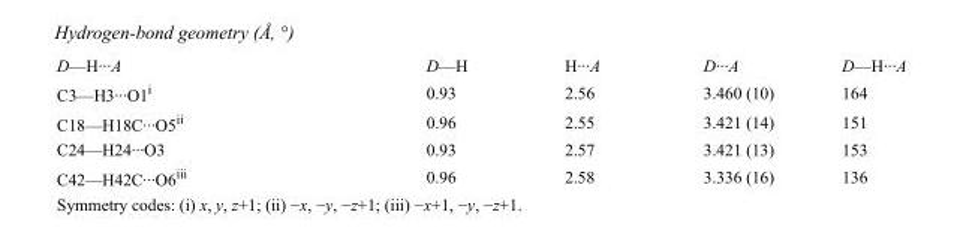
<table><tbody><tr><td>D—H···A</td><td>D—H</td><td>H···A</td><td>D···A</td><td>D—H···A</td></tr><tr><td>C3—H3···O1<sup>i</sup></td><td>0.93</td><td>2.56</td><td>3.460 (10)</td><td>164</td></tr><tr><td>C18—H18C···O5<sup>ii</sup></td><td>0.96</td><td>2.55</td><td>3.421 (14)</td><td>151</td></tr><tr><td>C24—H24···O3</td><td>0.93</td><td>2.57</td><td>3.421 (13)</td><td>153</td></tr><tr><td>C42—H42C···O6<sup>iii</sup></td><td>0.96</td><td>2.58</td><td>3.336 (16)</td><td>136</td></tr></tbody></table>